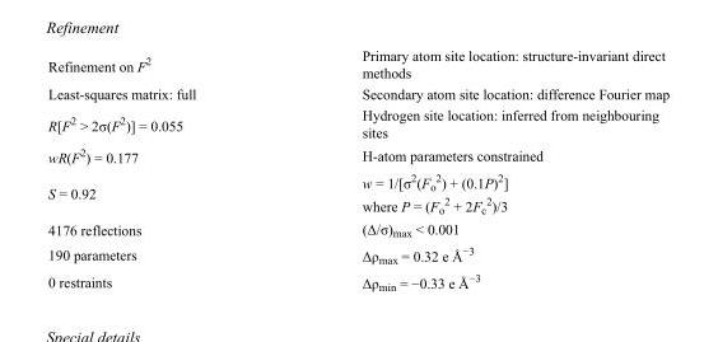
<table><tbody><tr><td>Refinement on F<sup>2</sup></td><td>Primary atom site location: structure-invariant direct methods</td></tr><tr><td>Least-squares matrix: full</td><td>Secondary atom site location: difference Fourier map</td></tr><tr><td>R[F<sup>2</sup> &gt; 2σ(F<sup>2</sup>)] = 0.055</td><td>Hydrogen site location: inferred from neighbouring sites</td></tr><tr><td>wR(F<sup>2</sup>) = 0.177</td><td>H-atom parameters constrained</td></tr><tr><td>S = 0.92</td><td>w = 1/[σ<sup>2</sup>(F<sub>o</sub> <sup>2</sup>) + (0.1P)<sup>2</sup>] where P = (F<sub>o</sub> <sup>2</sup> + 2F<sub>c</sub> <sup>2</sup>)/3</td></tr><tr><td>4176 reflections</td><td>(Δ/σ)<sub>max</sub> &lt; 0.001</td></tr><tr><td>190 parameters</td><td>Δρ<sub>max</sub> = 0.32 e Å<sup>−3</sup></td></tr><tr><td>0 restraints</td><td>Δρ<sub>min</sub> = −0.33 e Å<sup>−3</sup></td></tr></tbody></table>